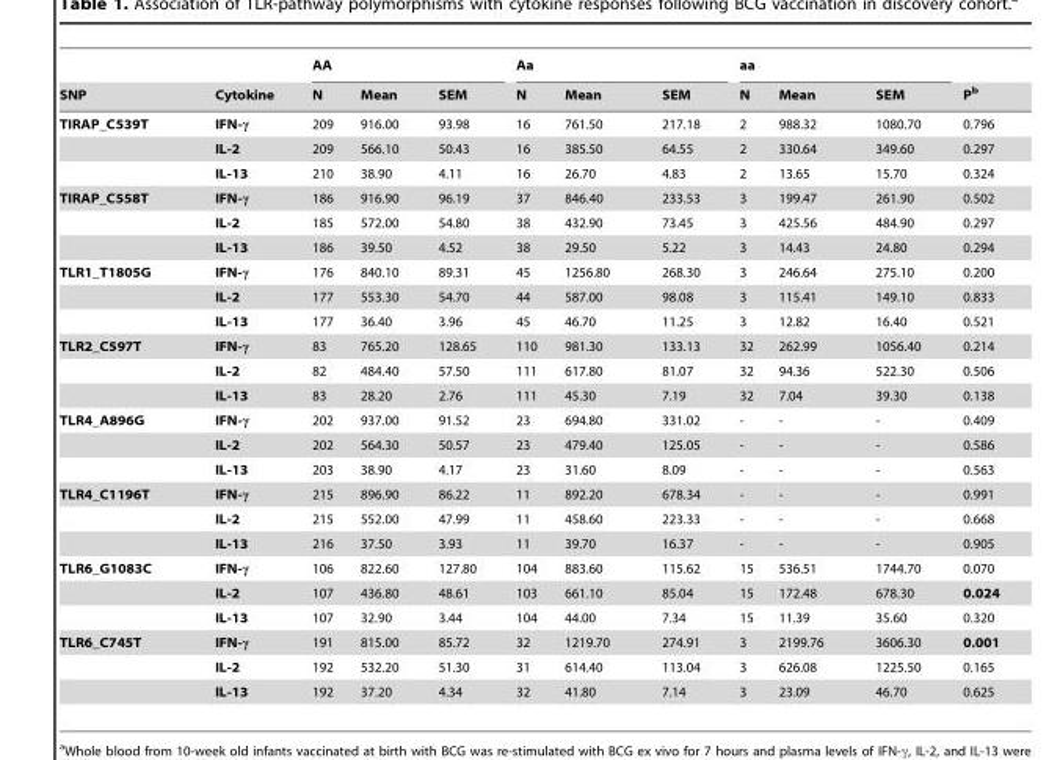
<table><thead><tr><td rowspan="2">SNP</td><td rowspan="2">Cytokine</td><td colspan="3">AA</td><td colspan="3">Aa</td><td colspan="3">aa</td><td rowspan="2">P<sup>b</sup></td></tr><tr><td>N</td><td>Mean</td><td>SEM</td><td>N</td><td>Mean</td><td>SEM</td><td>N</td><td>Mean</td><td>SEM</td></tr></thead><tbody><tr><td rowspan="3">TIRAP_C539T</td><td>IFN-γ</td><td>209</td><td>916.00</td><td>93.98</td><td>16</td><td>761.50</td><td>217.18</td><td>2</td><td>988.32</td><td>1080.70</td><td>0.796</td></tr><tr><td>IL-2</td><td>209</td><td>566.10</td><td>50.43</td><td>16</td><td>385.50</td><td>64.55</td><td>2</td><td>330.64</td><td>349.60</td><td>0.297</td></tr><tr><td>IL-13</td><td>210</td><td>38.90</td><td>4.11</td><td>16</td><td>26.70</td><td>4.83</td><td>2</td><td>13.65</td><td>15.70</td><td>0.324</td></tr><tr><td rowspan="3">TIRAP_C558T</td><td>IFN-γ</td><td>186</td><td>916.90</td><td>96.19</td><td>37</td><td>846.40</td><td>233.53</td><td>3</td><td>199.47</td><td>261.90</td><td>0.502</td></tr><tr><td>IL-2</td><td>185</td><td>572.00</td><td>54.80</td><td>38</td><td>432.90</td><td>73.45</td><td>3</td><td>425.56</td><td>484.90</td><td>0.297</td></tr><tr><td>IL-13</td><td>186</td><td>39.50</td><td>4.52</td><td>38</td><td>29.50</td><td>5.22</td><td>3</td><td>14.43</td><td>24.80</td><td>0.294</td></tr><tr><td rowspan="3">TLR1_T1805G</td><td>IFN-γ</td><td>176</td><td>840.10</td><td>89.31</td><td>45</td><td>1256.80</td><td>268.30</td><td>3</td><td>246.64</td><td>275.10</td><td>0.200</td></tr><tr><td>IL-2</td><td>177</td><td>553.30</td><td>54.70</td><td>44</td><td>587.00</td><td>98.08</td><td>3</td><td>115.41</td><td>149.10</td><td>0.833</td></tr><tr><td>IL-13</td><td>177</td><td>36.40</td><td>3.96</td><td>45</td><td>46.70</td><td>11.25</td><td>3</td><td>12.82</td><td>16.40</td><td>0.521</td></tr><tr><td rowspan="3">TLR2_C597T</td><td>IFN-γ</td><td>83</td><td>765.20</td><td>128.65</td><td>110</td><td>981.30</td><td>133.13</td><td>32</td><td>262.99</td><td>1056.40</td><td>0.214</td></tr><tr><td>IL-2</td><td>82</td><td>484.40</td><td>57.50</td><td>111</td><td>617.80</td><td>81.07</td><td>32</td><td>94.36</td><td>522.30</td><td>0.506</td></tr><tr><td>IL-13</td><td>83</td><td>28.20</td><td>2.76</td><td>111</td><td>45.30</td><td>7.19</td><td>32</td><td>7.04</td><td>39.30</td><td>0.138</td></tr><tr><td rowspan="3">TLR4_A896G</td><td>IFN-γ</td><td>202</td><td>937.00</td><td>91.52</td><td>23</td><td>694.80</td><td>331.02</td><td>-</td><td>-</td><td>-</td><td>0.409</td></tr><tr><td>IL-2</td><td>202</td><td>564.30</td><td>50.57</td><td>23</td><td>479.40</td><td>125.05</td><td>-</td><td>-</td><td>-</td><td>0.586</td></tr><tr><td>IL-13</td><td>203</td><td>38.90</td><td>4.17</td><td>23</td><td>31.60</td><td>8.09</td><td>-</td><td>-</td><td>-</td><td>0.563</td></tr><tr><td rowspan="3">TLR4_C1196T</td><td>IFN-γ</td><td>215</td><td>896.90</td><td>86.22</td><td>11</td><td>892.20</td><td>678.34</td><td>-</td><td>-</td><td>-</td><td>0.991</td></tr><tr><td>IL-2</td><td>215</td><td>552.00</td><td>47.99</td><td>11</td><td>458.60</td><td>223.33</td><td>-</td><td>-</td><td>-</td><td>0.668</td></tr><tr><td>IL-13</td><td>216</td><td>37.50</td><td>3.93</td><td>11</td><td>39.70</td><td>16.37</td><td>-</td><td>-</td><td>-</td><td>0.905</td></tr><tr><td rowspan="3">TLR6_G1083C</td><td>IFN-γ</td><td>106</td><td>822.60</td><td>127.80</td><td>104</td><td>883.60</td><td>115.62</td><td>15</td><td>536.51</td><td>1744.70</td><td>0.070</td></tr><tr><td>IL-2</td><td>107</td><td>436.80</td><td>48.61</td><td>103</td><td>661.10</td><td>85.04</td><td>15</td><td>172.48</td><td>678.30</td><td>0.024</td></tr><tr><td>IL-13</td><td>107</td><td>32.90</td><td>3.44</td><td>104</td><td>44.00</td><td>7.34</td><td>15</td><td>11.39</td><td>35.60</td><td>0.320</td></tr><tr><td rowspan="3">TLR6_C745T</td><td>IFN-γ</td><td>191</td><td>815.00</td><td>85.72</td><td>32</td><td>1219.70</td><td>274.91</td><td>3</td><td>2199.76</td><td>3606.30</td><td>0.001</td></tr><tr><td>IL-2</td><td>192</td><td>532.20</td><td>51.30</td><td>31</td><td>614.40</td><td>113.04</td><td>3</td><td>626.08</td><td>1225.50</td><td>0.165</td></tr><tr><td>IL-13</td><td>192</td><td>37.20</td><td>4.34</td><td>32</td><td>41.80</td><td>7.14</td><td>3</td><td>23.09</td><td>46.70</td><td>0.625</td></tr></tbody></table>